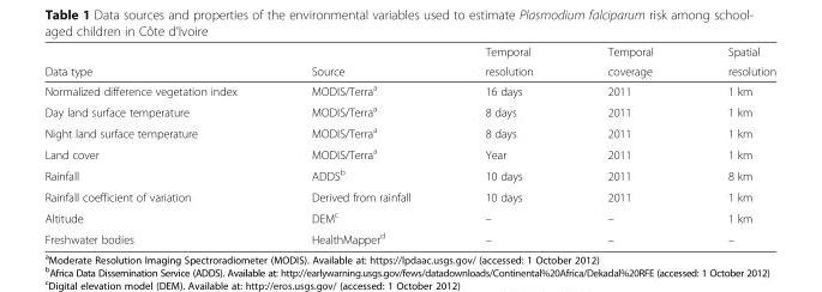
<table><thead><tr><td rowspan="2">Data type</td><td rowspan="2">Source</td><td rowspan="2">Temporal resolution</td><td rowspan="2">Temporal coverage</td><td rowspan="2">Spatial resolution</td></tr><tr></tr></thead><tbody><tr><td>Normalized difference vegetation index</td><td>MODIS/Terra<sup>a</sup></td><td>16 days</td><td>2011</td><td>1 km</td></tr><tr><td>Day land surface temperature</td><td>MODIS/Terra<sup>a</sup></td><td>8 days</td><td>2011</td><td>1 km</td></tr><tr><td>Night land surface temperature</td><td>MODIS/Terra<sup>a</sup></td><td>8 days</td><td>2011</td><td>1 km</td></tr><tr><td>Land cover</td><td>MODIS/Terra<sup>a</sup></td><td>Year</td><td>2011</td><td>1 km</td></tr><tr><td>Rainfall</td><td>ADDS<sup>b</sup></td><td>10 days</td><td>2011</td><td>8 km</td></tr><tr><td>Rainfall coefficient of variation</td><td>Derived from rainfall</td><td>10 days</td><td>2011</td><td>1 km</td></tr><tr><td>Altitude</td><td>DEM<sup>c</sup></td><td>–</td><td>–</td><td>1 km</td></tr><tr><td>Freshwater bodies</td><td>HealthMapper<sup>d</sup></td><td>–</td><td>–</td><td>–</td></tr></tbody></table>